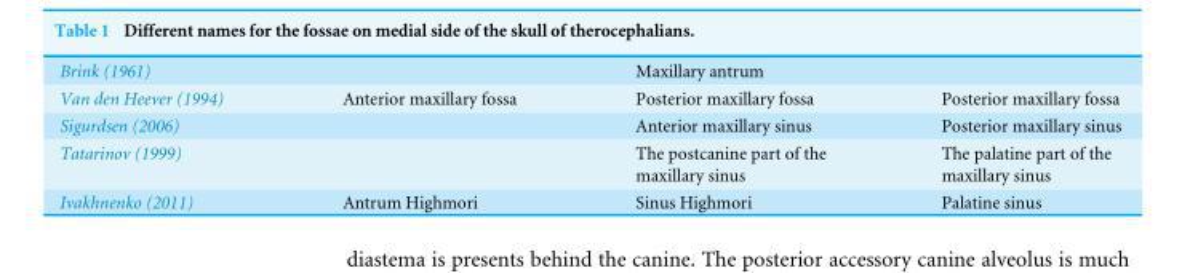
<table><tbody><tr><td>Brink (1961)</td><td></td><td>Maxillary antrum</td><td></td></tr><tr><td>Van den Heever (1994)</td><td>Anterior maxillary fossa</td><td>Posterior maxillary fossa</td><td>Posterior maxillary fossa</td></tr><tr><td>Sigurdsen (2006)</td><td></td><td>Anterior maxillary sinus</td><td>Posterior maxillary sinus</td></tr><tr><td>Tatarinov (1999)</td><td></td><td>The postcanine part of the maxillary sinus</td><td>The palatine part of the maxillary sinus</td></tr><tr><td>Ivakhnenko (2011)</td><td>Antrum Highmori</td><td>Sinus Highmori</td><td>Palatine sinus</td></tr></tbody></table>